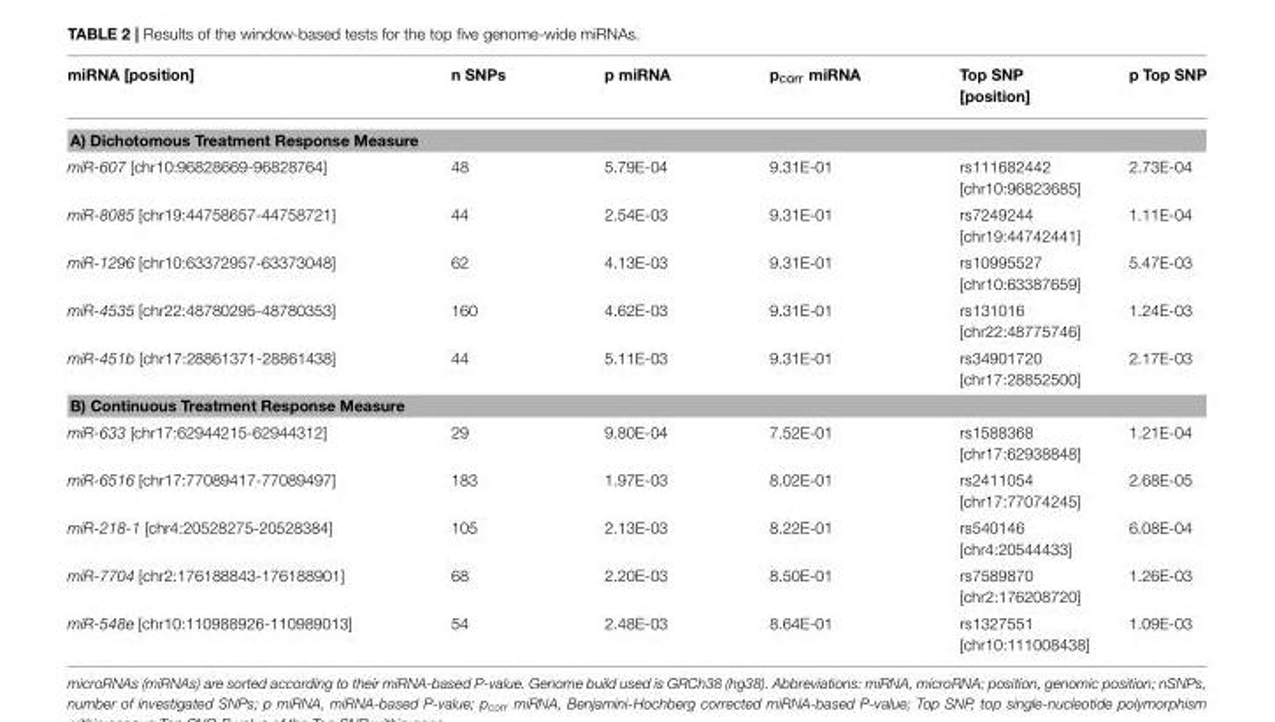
<table><thead><tr><td>miRNA [position]</td><td>n SNPs</td><td>p miRNA</td><td>p<sub>corr</sub> miRNA</td><td>Top SNP [position]</td><td>p Top SNP</td></tr></thead><tbody><tr><td colspan="6">A) Dichotomous Treatment Response Measure</td></tr><tr><td>miR-607 [chr10:96828669-96828764]</td><td>48</td><td>5.79E-04</td><td>9.31E-01</td><td>rs111682442 [chr10:96823685]</td><td>2.73E-04</td></tr><tr><td>miR-8085 [chr19:44758657-44758721]</td><td>44</td><td>2.54E-03</td><td>9.31E-01</td><td>rs7249244 [chr19:44742441]</td><td>1.11E-04</td></tr><tr><td>miR-1296 [chr10:63372957-63373048]</td><td>62</td><td>4.13E-03</td><td>9.31E-01</td><td>rs10995527 [chr10:63387659]</td><td>5.47E-03</td></tr><tr><td>miR-4535 [chr22:48780295-48780353]</td><td>160</td><td>4.62E-03</td><td>9.31E-01</td><td>rs131016 [chr22:48775746]</td><td>1.24E-03</td></tr><tr><td>miR-451b [chr17:28861371-28861438]</td><td>44</td><td>5.11E-03</td><td>9.31E-01</td><td>rs34901720 [chr17:28852500]</td><td>2.17E-03</td></tr><tr><td colspan="6">B) Continuous Treatment Response Measure</td></tr><tr><td>miR-633 [chr17:62944215-62944312]</td><td>29</td><td>9.80E-04</td><td>7.52E-01</td><td>rs1588368 [chr17:62938848]</td><td>1.21E-04</td></tr><tr><td>miR-6516 [chr17:77089417-77089497]</td><td>183</td><td>1.97E-03</td><td>8.02E-01</td><td>rs2411054 [chr17:77074245]</td><td>2.68E-05</td></tr><tr><td>miR-218-1 [chr4:20528275-20528384]</td><td>105</td><td>2.13E-03</td><td>8.22E-01</td><td>rs540146 [chr4:20544433]</td><td>6.08E-04</td></tr><tr><td>miR-7704 [chr2:176188843-176188901]</td><td>68</td><td>2.20E-03</td><td>8.50E-01</td><td>rs7589870 [chr2:176208720]</td><td>1.26E-03</td></tr><tr><td>miR-548e [chr10:110988926-110989013]</td><td>54</td><td>2.48E-03</td><td>8.64E-01</td><td>rs1327551 [chr10:111008438]</td><td>1.09E-03</td></tr></tbody></table>